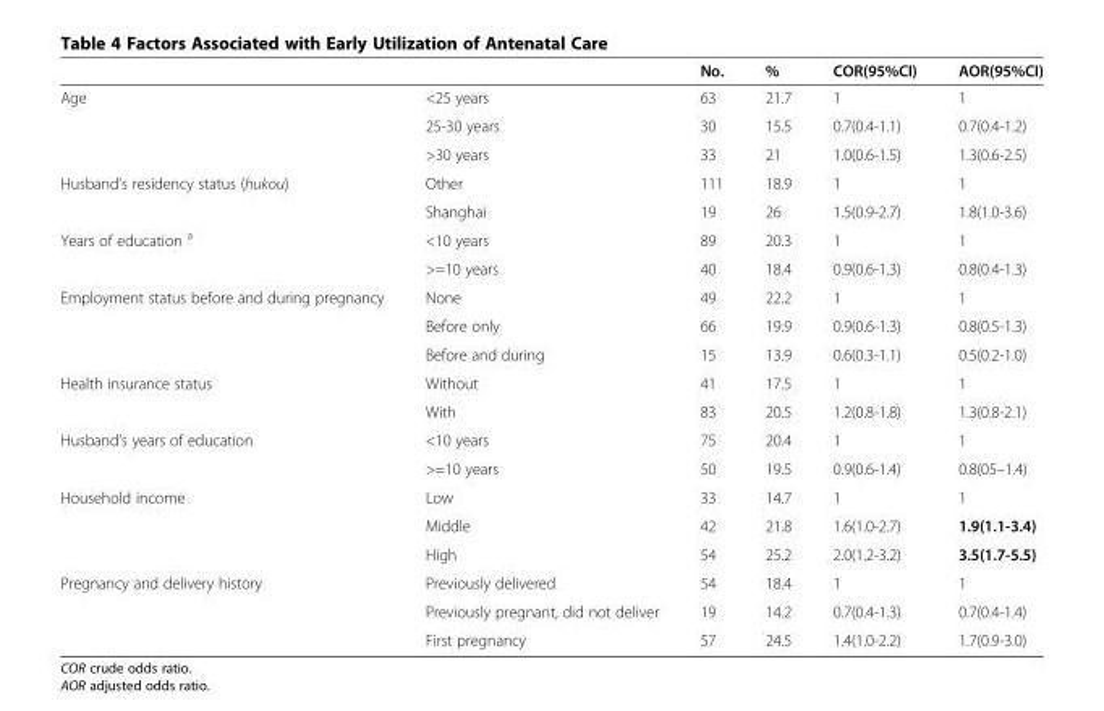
<table><thead><tr><td></td><td></td><td>No.</td><td>%</td><td>COR(95%CI)</td><td>AOR(95%CI)</td></tr></thead><tbody><tr><td rowspan="3">Age</td><td>&lt;25 years</td><td>63</td><td>21.7</td><td>1</td><td>1</td></tr><tr><td>25-30 years</td><td>30</td><td>15.5</td><td>0.7(0.4-1.1)</td><td>0.7(0.4-1.2)</td></tr><tr><td>&gt;30 years</td><td>33</td><td>21</td><td>1.0(0.6-1.5)</td><td>1.3(0.6-2.5)</td></tr><tr><td rowspan="2">Husband’s residency status (hukou)</td><td>Other</td><td>111</td><td>18.9</td><td>1</td><td>1</td></tr><tr><td>Shanghai</td><td>19</td><td>26</td><td>1.5(0.9-2.7)</td><td>1.8(1.0-3.6)</td></tr><tr><td rowspan="2">Years of education <sup>a</sup></td><td>&lt;10 years</td><td>89</td><td>20.3</td><td>1</td><td>1</td></tr><tr><td>&gt;=10 years</td><td>40</td><td>18.4</td><td>0.9(0.6-1.3)</td><td>0.8(0.4-1.3)</td></tr><tr><td rowspan="3">Employment status before and during pregnancy</td><td>None</td><td>49</td><td>22.2</td><td>1</td><td>1</td></tr><tr><td>Before only</td><td>66</td><td>19.9</td><td>0.9(0.6-1.3)</td><td>0.8(0.5-1.3)</td></tr><tr><td>Before and during</td><td>15</td><td>13.9</td><td>0.6(0.3-1.1)</td><td>0.5(0.2-1.0)</td></tr><tr><td rowspan="2">Health insurance status</td><td>Without</td><td>41</td><td>17.5</td><td>1</td><td>1</td></tr><tr><td>With</td><td>83</td><td>20.5</td><td>1.2(0.8-1.8)</td><td>1.3(0.8-2.1)</td></tr><tr><td rowspan="2">Husband’s years of education</td><td>&lt;10 years</td><td>75</td><td>20.4</td><td>1</td><td>1</td></tr><tr><td>&gt;=10 years</td><td>50</td><td>19.5</td><td>0.9(0.6-1.4)</td><td>0.8(05–1.4)</td></tr><tr><td rowspan="3">Household income</td><td>Low</td><td>33</td><td>14.7</td><td>1</td><td>1</td></tr><tr><td>Middle</td><td>42</td><td>21.8</td><td>1.6(1.0-2.7)</td><td>1.9(1.1-3.4)</td></tr><tr><td>High</td><td>54</td><td>25.2</td><td>2.0(1.2-3.2)</td><td>3.5(1.7-5.5)</td></tr><tr><td rowspan="3">Pregnancy and delivery history</td><td>Previously delivered</td><td>54</td><td>18.4</td><td>1</td><td>1</td></tr><tr><td>Previously pregnant, did not deliver</td><td>19</td><td>14.2</td><td>0.7(0.4-1.3)</td><td>0.7(0.4-1.4)</td></tr><tr><td>First pregnancy</td><td>57</td><td>24.5</td><td>1.4(1.0-2.2)</td><td>1.7(0.9-3.0)</td></tr></tbody></table>